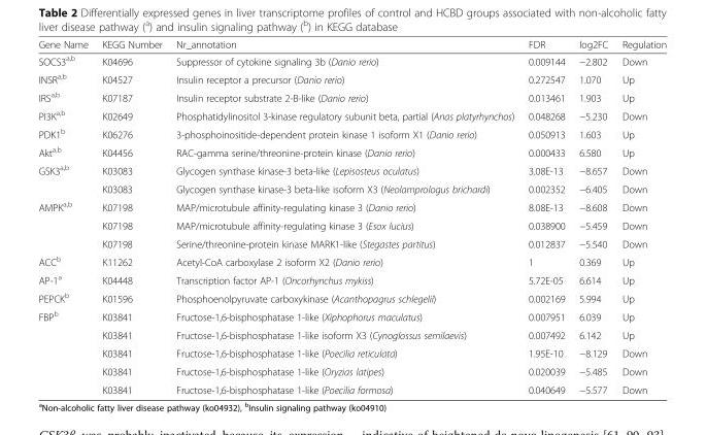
<table><thead><tr><td>Gene Name</td><td>KEGG Number</td><td>Nr_annotation</td><td>FDR</td><td>log2FC</td><td>Regulation</td></tr></thead><tbody><tr><td>SOCS3<sup>a,b</sup></td><td>K04696</td><td>Suppressor of cytokine signaling 3b (Danio rerio)</td><td>0.009144</td><td>−2.802</td><td>Down</td></tr><tr><td>INSR<sup>a,b</sup></td><td>K04527</td><td>Insulin receptor a precursor (Danio rerio)</td><td>0.272547</td><td>1.070</td><td>Up</td></tr><tr><td>IRS<sup>a,b</sup></td><td>K07187</td><td>Insulin receptor substrate 2-B-like (Danio rerio)</td><td>0.013461</td><td>1.903</td><td>Up</td></tr><tr><td>PI3K<sup>a,b</sup></td><td>K02649</td><td>Phosphatidylinositol 3-kinase regulatory subunit beta, partial (Anas platyrhynchos)</td><td>0.048268</td><td>−5.230</td><td>Down</td></tr><tr><td>PDK1<sup>b</sup></td><td>K06276</td><td>3-phosphoinositide-dependent protein kinase 1 isoform X1 (Danio rerio)</td><td>0.050913</td><td>1.603</td><td>Up</td></tr><tr><td>Akt<sup>a,b</sup></td><td>K04456</td><td>RAC-gamma serine/threonine-protein kinase (Danio rerio)</td><td>0.000433</td><td>6.580</td><td>Up</td></tr><tr><td rowspan="2">GSK3<sup>a,b</sup></td><td>K03083</td><td>Glycogen synthase kinase-3 beta-like (Lepisosteus oculatus)</td><td>3.08E-13</td><td>−8.657</td><td>Down</td></tr><tr><td>K03083</td><td>Glycogen synthase kinase-3 beta-like isoform X3 (Neolamprologus brichardi)</td><td>0.002352</td><td>−6.405</td><td>Down</td></tr><tr><td rowspan="3">AMPK<sup>a,b</sup></td><td>K07198</td><td>MAP/microtubule affinity-regulating kinase 3 (Danio rerio)</td><td>8.08E-13</td><td>−8.608</td><td>Down</td></tr><tr><td>K07198</td><td>MAP/microtubule affinity-regulating kinase 3 (Esox lucius)</td><td>0.038900</td><td>−5.459</td><td>Down</td></tr><tr><td>K07198</td><td>Serine/threonine-protein kinase MARK1-like (Stegastes partitus)</td><td>0.012837</td><td>−5.540</td><td>Down</td></tr><tr><td>ACC<sup>b</sup></td><td>K11262</td><td>Acetyl-CoA carboxylase 2 isoform X2 (Danio rerio)</td><td>1</td><td>0.369</td><td>Up</td></tr><tr><td>AP-1<sup>a</sup></td><td>K04448</td><td>Transcription factor AP-1 (Oncorhynchus mykiss)</td><td>5.72E-05</td><td>6.614</td><td>Up</td></tr><tr><td>PEPCK<sup>b</sup></td><td>K01596</td><td>Phosphoenolpyruvate carboxykinase (Acanthopagrus schlegelii)</td><td>0.002169</td><td>5.994</td><td>Up</td></tr><tr><td rowspan="5">FBP<sup>b</sup></td><td>K03841</td><td>Fructose-1,6-bisphosphatase 1-like (Xiphophorus maculatus)</td><td>0.007951</td><td>6.039</td><td>Up</td></tr><tr><td>K03841</td><td>Fructose-1,6-bisphosphatase 1-like isoform X3 (Cynoglossus semilaevis)</td><td>0.007492</td><td>6.142</td><td>Up</td></tr><tr><td>K03841</td><td>Fructose-1,6-bisphosphatase 1-like (Poecilia reticulata)</td><td>1.95E-10</td><td>−8.129</td><td>Down</td></tr><tr><td>K03841</td><td>Fructose-1,6-bisphosphatase 1-like (Oryzias latipes)</td><td>0.020039</td><td>−5.485</td><td>Down</td></tr><tr><td>K03841</td><td>Fructose-1,6-bisphosphatase 1-like (Poecilia formosa)</td><td>0.040649</td><td>−5.577</td><td>Down</td></tr></tbody></table>